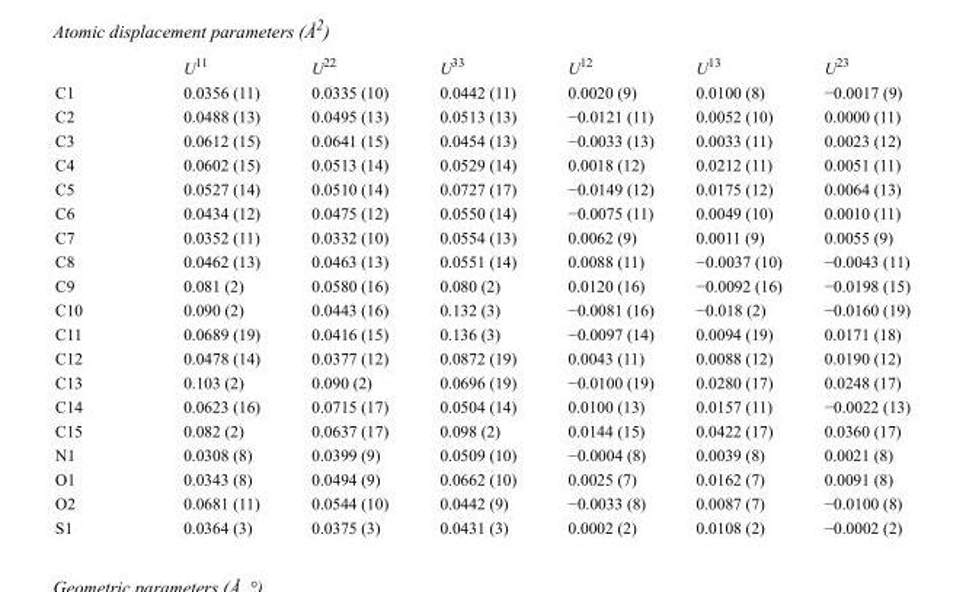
<table><thead><tr><td></td><td>U<sup>11</sup></td><td>U<sup>22</sup></td><td>U<sup>33</sup></td><td>U<sup>12</sup></td><td>U<sup>13</sup></td><td>U<sup>23</sup></td></tr></thead><tbody><tr><td>C1</td><td>0.0356 (11)</td><td>0.0335 (10)</td><td>0.0442 (11)</td><td>0.0020 (9)</td><td>0.0100 (8)</td><td>−0.0017 (9)</td></tr><tr><td>C2</td><td>0.0488 (13)</td><td>0.0495 (13)</td><td>0.0513 (13)</td><td>−0.0121 (11)</td><td>0.0052 (10)</td><td>0.0000 (11)</td></tr><tr><td>C3</td><td>0.0612 (15)</td><td>0.0641 (15)</td><td>0.0454 (13)</td><td>−0.0033 (13)</td><td>0.0033 (11)</td><td>0.0023 (12)</td></tr><tr><td>C4</td><td>0.0602 (15)</td><td>0.0513 (14)</td><td>0.0529 (14)</td><td>0.0018 (12)</td><td>0.0212 (11)</td><td>0.0051 (11)</td></tr><tr><td>C5</td><td>0.0527 (14)</td><td>0.0510 (14)</td><td>0.0727 (17)</td><td>−0.0149 (12)</td><td>0.0175 (12)</td><td>0.0064 (13)</td></tr><tr><td>C6</td><td>0.0434 (12)</td><td>0.0475 (12)</td><td>0.0550 (14)</td><td>−0.0075 (11)</td><td>0.0049 (10)</td><td>0.0010 (11)</td></tr><tr><td>C7</td><td>0.0352 (11)</td><td>0.0332 (10)</td><td>0.0554 (13)</td><td>0.0062 (9)</td><td>0.0011 (9)</td><td>0.0055 (9)</td></tr><tr><td>C8</td><td>0.0462 (13)</td><td>0.0463 (13)</td><td>0.0551 (14)</td><td>0.0088 (11)</td><td>−0.0037 (10)</td><td>−0.0043 (11)</td></tr><tr><td>C9</td><td>0.081 (2)</td><td>0.0580 (16)</td><td>0.080 (2)</td><td>0.0120 (16)</td><td>−0.0092 (16)</td><td>−0.0198 (15)</td></tr><tr><td>C10</td><td>0.090 (2)</td><td>0.0443 (16)</td><td>0.132 (3)</td><td>−0.0081 (16)</td><td>−0.018 (2)</td><td>−0.0160 (19)</td></tr><tr><td>C11</td><td>0.0689 (19)</td><td>0.0416 (15)</td><td>0.136 (3)</td><td>−0.0097 (14)</td><td>0.0094 (19)</td><td>0.0171 (18)</td></tr><tr><td>C12</td><td>0.0478 (14)</td><td>0.0377 (12)</td><td>0.0872 (19)</td><td>0.0043 (11)</td><td>0.0088 (12)</td><td>0.0190 (12)</td></tr><tr><td>C13</td><td>0.103 (2)</td><td>0.090 (2)</td><td>0.0696 (19)</td><td>−0.0100 (19)</td><td>0.0280 (17)</td><td>0.0248 (17)</td></tr><tr><td>C14</td><td>0.0623 (16)</td><td>0.0715 (17)</td><td>0.0504 (14)</td><td>0.0100 (13)</td><td>0.0157 (11)</td><td>−0.0022 (13)</td></tr><tr><td>C15</td><td>0.082 (2)</td><td>0.0637 (17)</td><td>0.098 (2)</td><td>0.0144 (15)</td><td>0.0422 (17)</td><td>0.0360 (17)</td></tr><tr><td>N1</td><td>0.0308 (8)</td><td>0.0399 (9)</td><td>0.0509 (10)</td><td>−0.0004 (8)</td><td>0.0039 (8)</td><td>0.0021 (8)</td></tr><tr><td>O1</td><td>0.0343 (8)</td><td>0.0494 (9)</td><td>0.0662 (10)</td><td>0.0025 (7)</td><td>0.0162 (7)</td><td>0.0091 (8)</td></tr><tr><td>O2</td><td>0.0681 (11)</td><td>0.0544 (10)</td><td>0.0442 (9)</td><td>−0.0033 (8)</td><td>0.0087 (7)</td><td>−0.0100 (8)</td></tr><tr><td>S1</td><td>0.0364 (3)</td><td>0.0375 (3)</td><td>0.0431 (3)</td><td>0.0002 (2)</td><td>0.0108 (2)</td><td>−0.0002 (2)</td></tr></tbody></table>